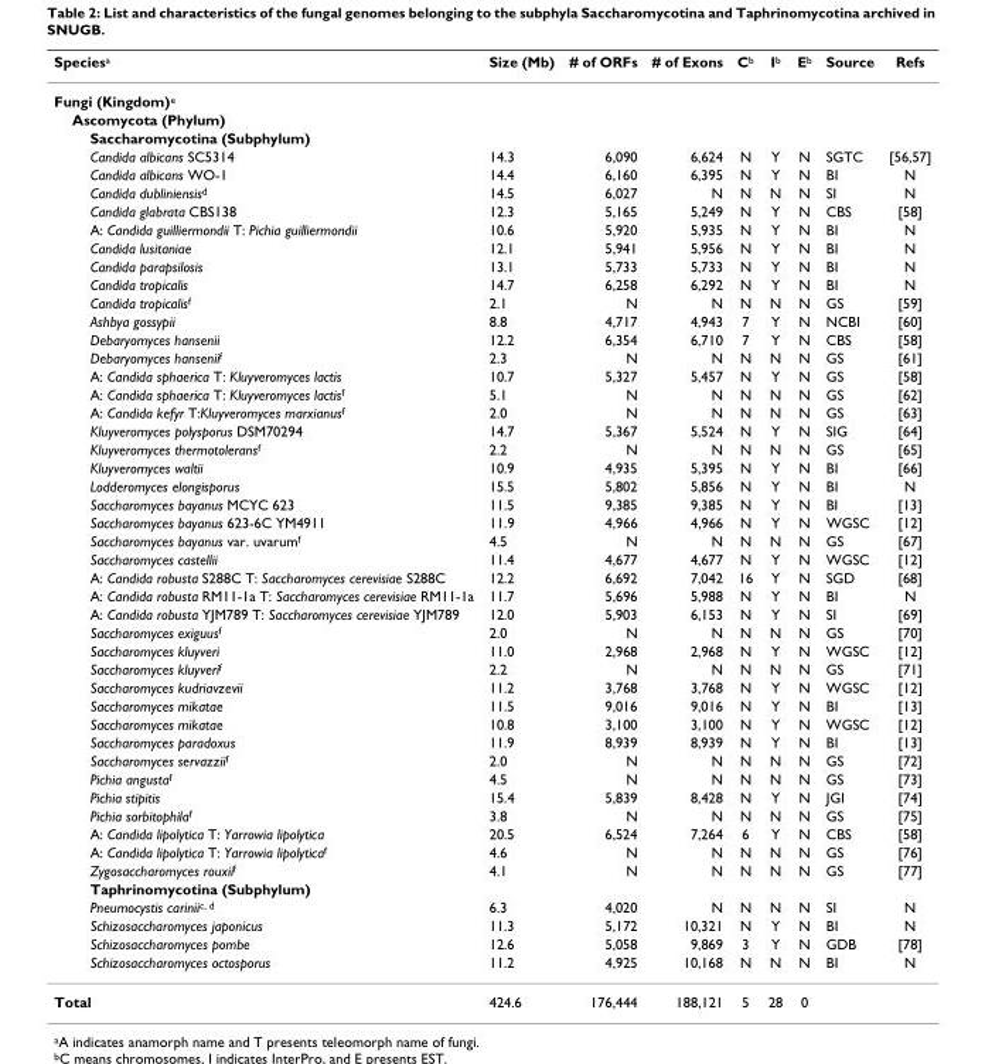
<table><thead><tr><td>Species<sup>a</sup></td><td>Size (Mb)</td><td># of ORFs</td><td># of Exons</td><td>C<sup>b</sup></td><td>I<sup>b</sup></td><td>E<sup>b</sup></td><td>Source</td><td>Refs</td></tr></thead><tbody><tr><td colspan="9">Fungi (Kingdom)<sup>e</sup></td></tr><tr><td colspan="9">Ascomycota (Phylum)</td></tr><tr><td colspan="9">Saccharomycotina (Subphylum)</td></tr><tr><td>Candida albicans SC5314</td><td>14.3</td><td>6,090</td><td>6,624</td><td>N</td><td>Y</td><td>N</td><td>SGTC</td><td>[56,57]</td></tr><tr><td>Candida albicans WO-1</td><td>14.4</td><td>6,160</td><td>6,395</td><td>N</td><td>Y</td><td>N</td><td>BI</td><td>N</td></tr><tr><td>Candida dubliniensis<sup>d</sup></td><td>14.5</td><td>6,027</td><td>N</td><td>N</td><td>N</td><td>N</td><td>SI</td><td>N</td></tr><tr><td>Candida glabrata CBS138</td><td>12.3</td><td>5,165</td><td>5,249</td><td>N</td><td>Y</td><td>N</td><td>CBS</td><td>[58]</td></tr><tr><td>A: Candida guilliermondii T: Pichia guilliermondii</td><td>10.6</td><td>5,920</td><td>5,935</td><td>N</td><td>Y</td><td>N</td><td>BI</td><td>N</td></tr><tr><td>Candida lusitaniae</td><td>12.1</td><td>5,941</td><td>5,956</td><td>N</td><td>Y</td><td>N</td><td>BI</td><td>N</td></tr><tr><td>Candida parapsilosis</td><td>13.1</td><td>5,733</td><td>5,733</td><td>N</td><td>Y</td><td>N</td><td>BI</td><td>N</td></tr><tr><td>Candida tropicalis</td><td>14.7</td><td>6,258</td><td>6,292</td><td>N</td><td>Y</td><td>N</td><td>BI</td><td>N</td></tr><tr><td>Candida tropicalis<sup>f</sup></td><td>2.1</td><td>N</td><td>N</td><td>N</td><td>N</td><td>N</td><td>GS</td><td>[59]</td></tr><tr><td>Ashbya gossypii</td><td>8.8</td><td>4,717</td><td>4,943</td><td>7</td><td>Y</td><td>N</td><td>NCBI</td><td>[60]</td></tr><tr><td>Debaryomyces hansenii</td><td>12.2</td><td>6,354</td><td>6,710</td><td>7</td><td>Y</td><td>N</td><td>CBS</td><td>[58]</td></tr><tr><td>Debaryomyces hansenii<sup>f</sup></td><td>2.3</td><td>N</td><td>N</td><td>N</td><td>N</td><td>N</td><td>GS</td><td>[61]</td></tr><tr><td>A: Candida sphaerica T: Kluyveromyces lactis</td><td>10.7</td><td>5,327</td><td>5,457</td><td>N</td><td>Y</td><td>N</td><td>GS</td><td>[58]</td></tr><tr><td>A: Candida sphaerica T: Kluyveromyces lactis<sup>f</sup></td><td>5.1</td><td>N</td><td>N</td><td>N</td><td>N</td><td>N</td><td>GS</td><td>[62]</td></tr><tr><td>A: Candida kefyr T:Kluyveromyces marxianus<sup>f</sup></td><td>2.0</td><td>N</td><td>N</td><td>N</td><td>N</td><td>N</td><td>GS</td><td>[63]</td></tr><tr><td>Kluyveromyces polysporus DSM70294</td><td>14.7</td><td>5,367</td><td>5,524</td><td>N</td><td>Y</td><td>N</td><td>SIG</td><td>[64]</td></tr><tr><td>Kluyveromyces thermotolerans<sup>f</sup></td><td>2.2</td><td>N</td><td>N</td><td>N</td><td>N</td><td>N</td><td>GS</td><td>[65]</td></tr><tr><td>Kluyveromyces waltii</td><td>10.9</td><td>4,935</td><td>5,395</td><td>N</td><td>Y</td><td>N</td><td>BI</td><td>[66]</td></tr><tr><td>Lodderomyces elongisporus</td><td>15.5</td><td>5,802</td><td>5,856</td><td>N</td><td>Y</td><td>N</td><td>BI</td><td>N</td></tr><tr><td>Saccharomyces bayanus MCYC 623</td><td>11.5</td><td>9,385</td><td>9,385</td><td>N</td><td>Y</td><td>N</td><td>BI</td><td>[13]</td></tr><tr><td>Saccharomyces bayanus 623-6C YM4911</td><td>11.9</td><td>4,966</td><td>4,966</td><td>N</td><td>Y</td><td>N</td><td>WGSC</td><td>[12]</td></tr><tr><td>Saccharomyces bayanus var. uvarum<sup>f</sup></td><td>4.5</td><td>N</td><td>N</td><td>N</td><td>N</td><td>N</td><td>GS</td><td>[67]</td></tr><tr><td>Saccharomyces castellii</td><td>11.4</td><td>4,677</td><td>4,677</td><td>N</td><td>Y</td><td>N</td><td>WGSC</td><td>[12]</td></tr><tr><td>A: Candida robusta S288C T: Saccharomyces cerevisiae S288C</td><td>12.2</td><td>6,692</td><td>7,042</td><td>16</td><td>Y</td><td>N</td><td>SGD</td><td>[68]</td></tr><tr><td>A: Candida robusta RM11-1a T: Saccharomyces cerevisiae RM11-1a</td><td>11.7</td><td>5,696</td><td>5,988</td><td>N</td><td>Y</td><td>N</td><td>BI</td><td>N</td></tr><tr><td>A: Candida robusta YJM789 T: Saccharomyces cerevisiae YJM789</td><td>12.0</td><td>5,903</td><td>6,153</td><td>N</td><td>Y</td><td>N</td><td>SI</td><td>[69]</td></tr><tr><td>Saccharomyces exiguus<sup>f</sup></td><td>2.0</td><td>N</td><td>N</td><td>N</td><td>N</td><td>N</td><td>GS</td><td>[70]</td></tr><tr><td>Saccharomyces kluyveri</td><td>11.0</td><td>2,968</td><td>2,968</td><td>N</td><td>Y</td><td>N</td><td>WGSC</td><td>[12]</td></tr><tr><td>Saccharomyces kluyveri<sup>f</sup></td><td>2.2</td><td>N</td><td>N</td><td>N</td><td>N</td><td>N</td><td>GS</td><td>[71]</td></tr><tr><td>Saccharomyces kudriavzevii</td><td>11.2</td><td>3,768</td><td>3,768</td><td>N</td><td>Y</td><td>N</td><td>WGSC</td><td>[12]</td></tr><tr><td>Saccharomyces mikatae</td><td>11.5</td><td>9,016</td><td>9,016</td><td>N</td><td>Y</td><td>N</td><td>BI</td><td>[13]</td></tr><tr><td>Saccharomyces mikatae</td><td>10.8</td><td>3,100</td><td>3,100</td><td>N</td><td>Y</td><td>N</td><td>WGSC</td><td>[12]</td></tr><tr><td>Saccharomyces paradoxus</td><td>11.9</td><td>8,939</td><td>8,939</td><td>N</td><td>Y</td><td>N</td><td>BI</td><td>[13]</td></tr><tr><td>Saccharomyces servazzii<sup>f</sup></td><td>2.0</td><td>N</td><td>N</td><td>N</td><td>N</td><td>N</td><td>GS</td><td>[72]</td></tr><tr><td>Pichia angusta<sup>f</sup></td><td>4.5</td><td>N</td><td>N</td><td>N</td><td>N</td><td>N</td><td>GS</td><td>[73]</td></tr><tr><td>Pichia stipitis</td><td>15.4</td><td>5,839</td><td>8,428</td><td>N</td><td>Y</td><td>N</td><td>JGI</td><td>[74]</td></tr><tr><td>Pichia sorbitophila<sup>f</sup></td><td>3.8</td><td>N</td><td>N</td><td>N</td><td>N</td><td>N</td><td>GS</td><td>[75]</td></tr><tr><td>A: Candida lipolytica T: Yarrowia lipolytica</td><td>20.5</td><td>6,524</td><td>7,264</td><td>6</td><td>Y</td><td>N</td><td>CBS</td><td>[58]</td></tr><tr><td>A: Candida lipolytica T: Yarrowia lipolytica<sup>f</sup></td><td>4.6</td><td>N</td><td>N</td><td>N</td><td>N</td><td>N</td><td>GS</td><td>[76]</td></tr><tr><td>Zygosaccharomyces rouxii<sup>f</sup></td><td>4.1</td><td>N</td><td>N</td><td>N</td><td>N</td><td>N</td><td>GS</td><td>[77]</td></tr><tr><td colspan="9">Taphrinomycotina (Subphylum)</td></tr><tr><td>Pneumocystis carinii<sup>c, d</sup></td><td>6.3</td><td>4,020</td><td>N</td><td>N</td><td>N</td><td>N</td><td>SI</td><td>N</td></tr><tr><td>Schizosaccharomyces japonicus</td><td>11.3</td><td>5,172</td><td>10,321</td><td>N</td><td>Y</td><td>N</td><td>BI</td><td>N</td></tr><tr><td>Schizosaccharomyces pombe</td><td>12.6</td><td>5,058</td><td>9,869</td><td>3</td><td>Y</td><td>N</td><td>GDB</td><td>[78]</td></tr><tr><td>Schizosaccharomyces octosporus</td><td>11.2</td><td>4,925</td><td>10,168</td><td>N</td><td>N</td><td>N</td><td>BI</td><td>N</td></tr><tr><td>Total</td><td>424.6</td><td>176,444</td><td>188,121</td><td>5</td><td>28</td><td>0</td><td></td><td></td></tr></tbody></table>